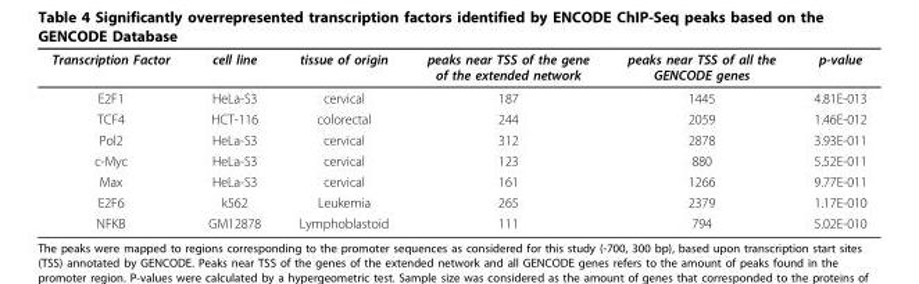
<table><thead><tr><td>Transcription Factor</td><td>cell line</td><td>tissue of origin</td><td>peaks near TSS of the gene of the extended network</td><td>peaks near TSS of all the GENCODE genes</td><td>p-value</td></tr></thead><tbody><tr><td>E2F1</td><td>HeLa-S3</td><td>cervical</td><td>187</td><td>1445</td><td>4.81E-013</td></tr><tr><td>TCF4</td><td>HCT-116</td><td>colorectal</td><td>244</td><td>2059</td><td>1.46E-012</td></tr><tr><td>Pol2</td><td>HeLa-S3</td><td>cervical</td><td>312</td><td>2878</td><td>3.93E-011</td></tr><tr><td>c-Myc</td><td>HeLa-S3</td><td>cervical</td><td>123</td><td>880</td><td>5.52E-011</td></tr><tr><td>Max</td><td>HeLa-S3</td><td>cervical</td><td>161</td><td>1266</td><td>9.77E-011</td></tr><tr><td>E2F6</td><td>k562</td><td>Leukemia</td><td>265</td><td>2379</td><td>1.17E-010</td></tr><tr><td>NFKB</td><td>GM12878</td><td>Lymphoblastoid</td><td>111</td><td>794</td><td>5.02E-010</td></tr></tbody></table>